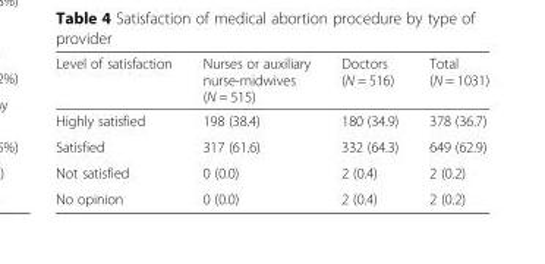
<table><thead><tr><td>Level of satisfaction</td><td>Nurses or auxiliary nurse-midwives (N = 515)</td><td>Doctors (N = 516)</td><td>Total (N = 1031)</td></tr></thead><tbody><tr><td>Highly satisfied</td><td>198 (38.4)</td><td>180 (34.9)</td><td>378 (36.7)</td></tr><tr><td>Satisfied</td><td>317 (61.6)</td><td>332 (64.3)</td><td>649 (62.9)</td></tr><tr><td>Not satisfied</td><td>0 (0.0)</td><td>2 (0.4)</td><td>2 (0.2)</td></tr><tr><td>No opinion</td><td>0 (0.0)</td><td>2 (0.4)</td><td>2 (0.2)</td></tr></tbody></table>